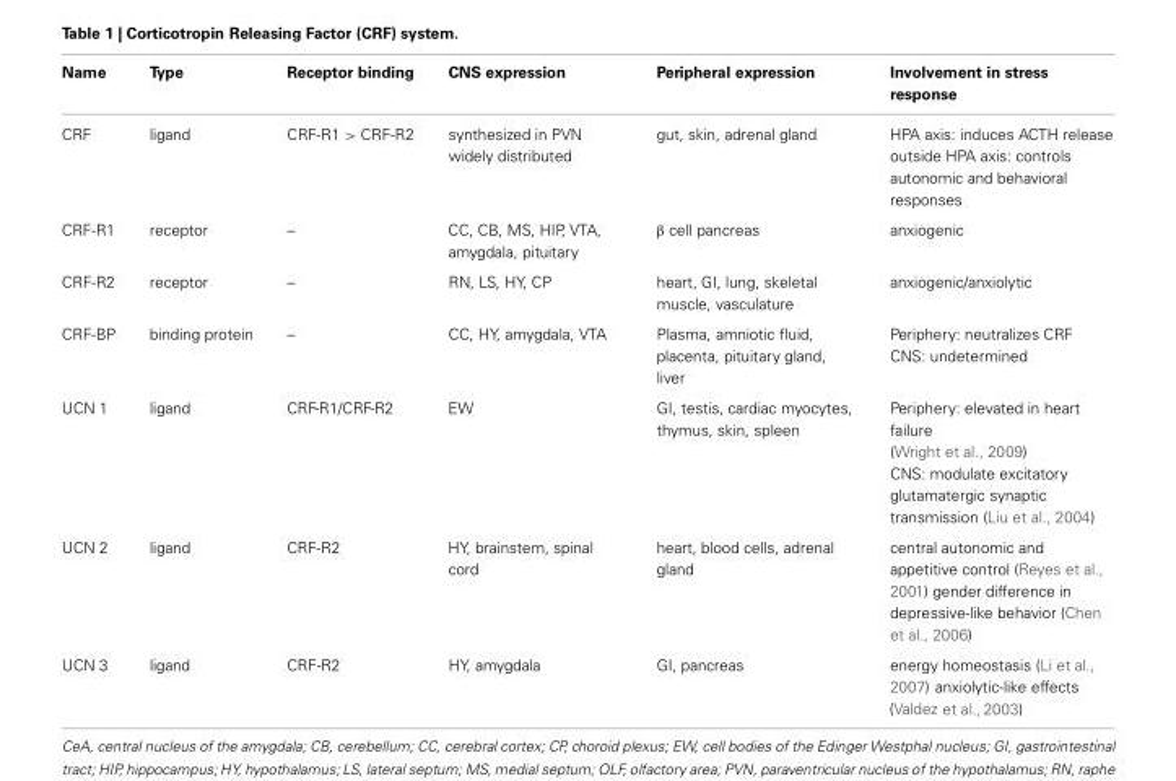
<table><thead><tr><td>Name</td><td>Type</td><td>Receptor binding</td><td>CNS expression</td><td>Peripheral expression</td><td>Involvement in stress response</td></tr></thead><tbody><tr><td>CRF</td><td>ligand</td><td>CRF-R1 &gt; CRF-R2</td><td>synthesized in PVN widely distributed</td><td>gut, skin, adrenal gland</td><td>HPA axis: induces ACTH release outside HPA axis: controls autonomic and behavioral responses</td></tr><tr><td>CRF-R1</td><td>receptor</td><td>–</td><td>CC, CB, MS, HIP, VTA, amygdala, pituitary</td><td>β cell pancreas</td><td>anxiogenic</td></tr><tr><td>CRF-R2</td><td>receptor</td><td>–</td><td>RN, LS, HY, CP</td><td>heart, GI, lung, skeletal muscle, vasculature</td><td>anxiogenic/anxiolytic</td></tr><tr><td>CRF-BP</td><td>binding protein</td><td>–</td><td>CC, HY, amygdala, VTA</td><td>Plasma, amniotic fluid, placenta, pituitary gland, liver</td><td>Periphery: neutralizes CRF CNS: undetermined</td></tr><tr><td>UCN 1</td><td>ligand</td><td>CRF-R1/CRF-R2</td><td>EW</td><td>GI, testis, cardiac myocytes, thymus, skin, spleen</td><td>Periphery: elevated in heart failure (Wright et al., 2009) CNS: modulate excitatory glutamatergic synaptic transmission (Liu et al., 2004)</td></tr><tr><td>UCN 2</td><td>ligand</td><td>CRF-R2</td><td>HY, brainstem, spinal cord</td><td>heart, blood cells, adrenal gland</td><td>central autonomic and appetitive control (Reyes et al., 2001) gender difference in depressive-like behavior (Chen et al., 2006)</td></tr><tr><td>UCN 3</td><td>ligand</td><td>CRF-R2</td><td>HY, amygdala</td><td>GI, pancreas</td><td>energy homeostasis (Li et al., 2007) anxiolytic-like effects (Valdez et al., 2003)</td></tr></tbody></table>